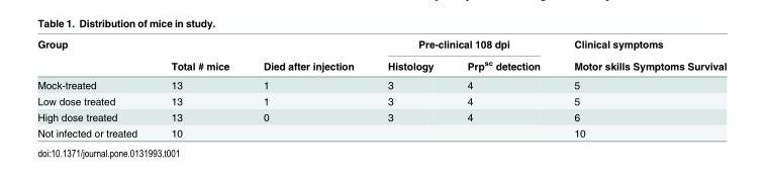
<table><thead><tr><td rowspan="2">Group</td><td rowspan="2">Total # mice</td><td rowspan="2">Died after injection</td><td colspan="2">Pre-clinical 108 dpi</td><td rowspan="2">Clinical symptoms Motor skills Symptoms Survival</td></tr><tr><td>Histology</td><td>Prp<sup>sc</sup> detection</td></tr></thead><tbody><tr><td>Mock-treated</td><td>13</td><td>1</td><td>3</td><td>4</td><td>5</td></tr><tr><td>Low dose treated</td><td>13</td><td>1</td><td>3</td><td>4</td><td>5</td></tr><tr><td>High dose treated</td><td>13</td><td>0</td><td>3</td><td>4</td><td>6</td></tr><tr><td>Not infected or treated</td><td>10</td><td></td><td></td><td></td><td>10</td></tr></tbody></table>